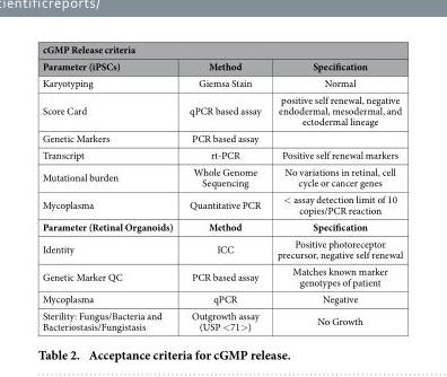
<table><thead><tr><td colspan="3">cGMP Release criteria</td></tr><tr><td>Parameter (iPSCs)</td><td>Method</td><td>Specification</td></tr></thead><tbody><tr><td>Karyotyping</td><td>Giemsa Stain</td><td>Normal</td></tr><tr><td>Score Card</td><td>qPCR based assay</td><td>positive self renewal, negative endodermal, mesodermal, and ectodermal lineage</td></tr><tr><td>Genetic Markers</td><td>PCR based assay</td><td></td></tr><tr><td>Transcript</td><td>rt-PCR</td><td>Positive self renewal markers</td></tr><tr><td>Mutational burden</td><td>Whole Genome Sequencing</td><td>No variations in retinal, cell cycle or cancer genes</td></tr><tr><td>Mycoplasma</td><td>Quantitative PCR</td><td>&lt; assay detection limit of 10 copies/PCR reaction</td></tr><tr><td>Parameter (Retinal Organoids)</td><td>Method</td><td>Specification</td></tr><tr><td>Identity</td><td>ICC</td><td>Positive photoreceptor precursor, negative self renewal</td></tr><tr><td>Genetic Marker QC</td><td>PCR based assay</td><td>Matches known marker genotypes of patient</td></tr><tr><td>Mycoplasma</td><td>qPCR</td><td>Negative</td></tr><tr><td>Sterility: Fungus/Bacteria and Bacteriostasis/Fungistasis</td><td>Outgrowth assay (USP &lt; 71&gt; )</td><td>No Growth</td></tr></tbody></table>